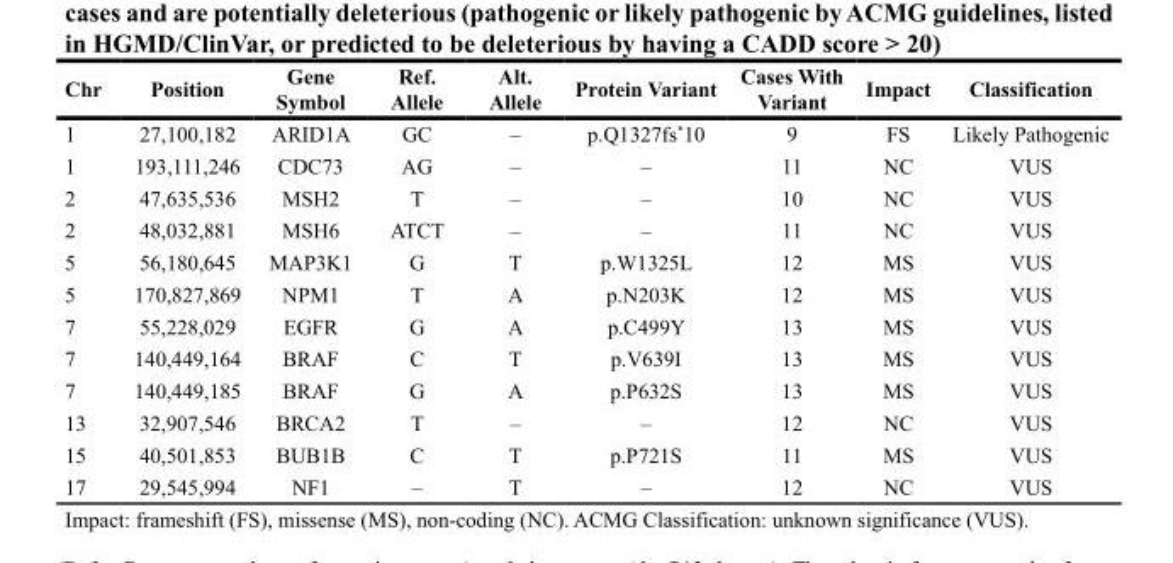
<table><thead><tr><td>Chr</td><td>Position</td><td>Gene Symbol</td><td>Ref. Allele</td><td>Alt. Allele</td><td>Protein Variant</td><td>Cases With Variant</td><td>Impact</td><td>Classification</td></tr></thead><tbody><tr><td>1</td><td>27,100,182</td><td>ARID1A</td><td>GC</td><td>–</td><td>p.Q1327fs*10</td><td>9</td><td>FS</td><td>Likely Pathogenic</td></tr><tr><td>1</td><td>193,111,246</td><td>CDC73</td><td>AG</td><td>–</td><td>–</td><td>11</td><td>NC</td><td>VUS</td></tr><tr><td>2</td><td>47,635,536</td><td>MSH2</td><td>T</td><td>–</td><td>–</td><td>10</td><td>NC</td><td>VUS</td></tr><tr><td>2</td><td>48,032,881</td><td>MSH6</td><td>ATCT</td><td>–</td><td>–</td><td>11</td><td>NC</td><td>VUS</td></tr><tr><td>5</td><td>56,180,645</td><td>MAP3K1</td><td>G</td><td>T</td><td>p.W1325L</td><td>12</td><td>MS</td><td>VUS</td></tr><tr><td>5</td><td>170,827,869</td><td>NPM1</td><td>T</td><td>A</td><td>p.N203K</td><td>12</td><td>MS</td><td>VUS</td></tr><tr><td>7</td><td>55,228,029</td><td>EGFR</td><td>G</td><td>A</td><td>p.C499Y</td><td>13</td><td>MS</td><td>VUS</td></tr><tr><td>7</td><td>140,449,164</td><td>BRAF</td><td>C</td><td>T</td><td>p.V639I</td><td>13</td><td>MS</td><td>VUS</td></tr><tr><td>7</td><td>140,449,185</td><td>BRAF</td><td>G</td><td>A</td><td>p.P632S</td><td>13</td><td>MS</td><td>VUS</td></tr><tr><td>13</td><td>32,907,546</td><td>BRCA2</td><td>T</td><td>–</td><td>–</td><td>12</td><td>NC</td><td>VUS</td></tr><tr><td>15</td><td>40,501,853</td><td>BUB1B</td><td>C</td><td>T</td><td>p.P721S</td><td>11</td><td>MS</td><td>VUS</td></tr><tr><td>17</td><td>29,545,994</td><td>NF1</td><td>–</td><td>T</td><td>–</td><td>12</td><td>NC</td><td>VUS</td></tr></tbody></table>